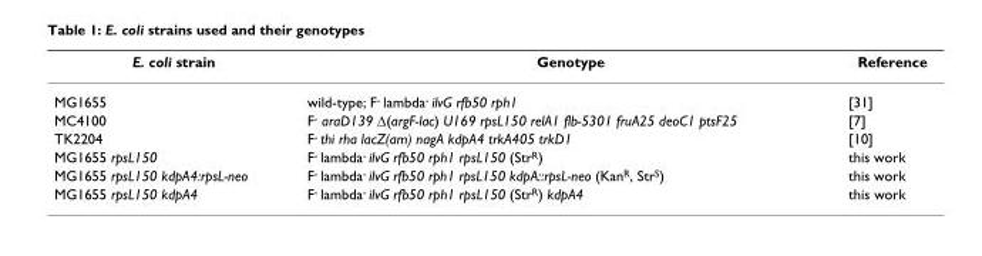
<table><thead><tr><td>E. coli strain</td><td>Genotype</td><td>Reference</td></tr></thead><tbody><tr><td>MG1655</td><td>wild-type; F<sup>-</sup> lambda<sup>-</sup> ilvG rfb50 rph1</td><td>[31]</td></tr><tr><td>MC4100</td><td>F<sup>-</sup> araD139 Δ(argF-lac) U169 rpsL150 relA1 flb-5301 fruA25 deoC1 ptsF25</td><td>[7]</td></tr><tr><td>TK2204</td><td>F<sup>-</sup> thi rha lacZ(am) nagA kdpA4 trkA405 trkD1</td><td>[10]</td></tr><tr><td>MG1655 rpsL150</td><td>F<sup>-</sup> lambda<sup>-</sup> ilvG rfb50 rph1 rpsL150 (Str<sup>R</sup>)</td><td>this work</td></tr><tr><td>MG1655 rpsL150 kdpA4:rpsL-neo</td><td>F<sup>-</sup> lambda<sup>-</sup> ilvG rfb50 rph1 rpsL150 kdpA::rpsL-neo (Kan<sup>R</sup>, Str<sup>S</sup>)</td><td>this work</td></tr><tr><td>MG1655 rpsL150 kdpA4</td><td>F<sup>-</sup> lambda<sup>-</sup> ilvG rfb50 rph1 rpsL150 (Str<sup>R</sup>) kdpA4</td><td>this work</td></tr></tbody></table>